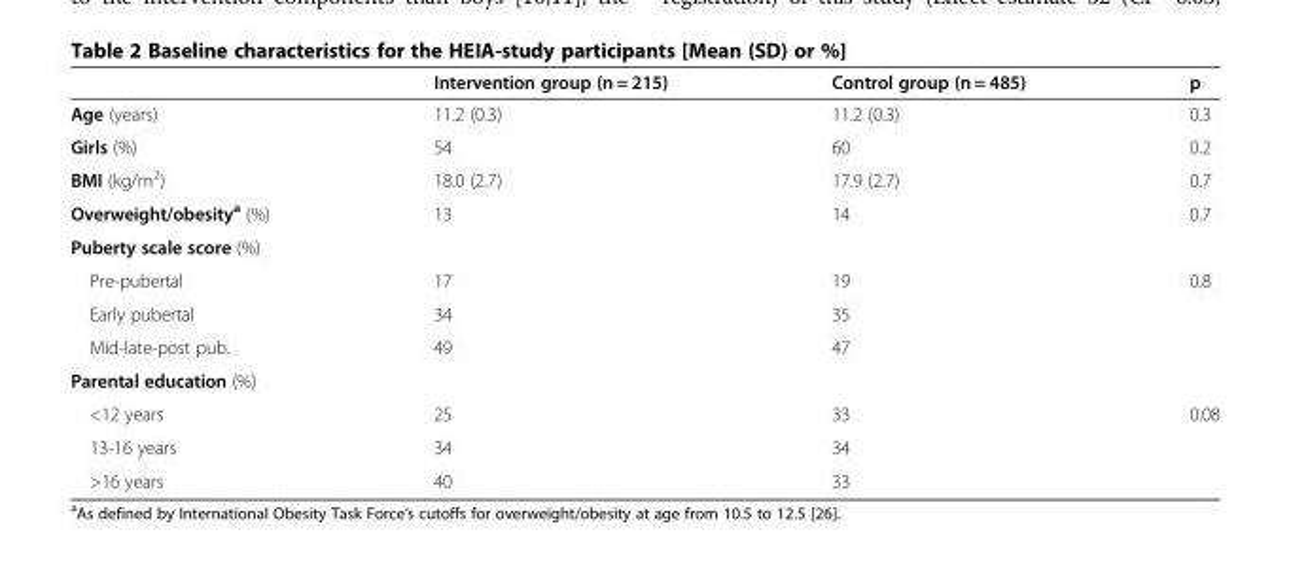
<table><thead><tr><td></td><td>Intervention group (n = 215)</td><td>Control group (n = 485)</td><td>p</td></tr></thead><tbody><tr><td>Age (years)</td><td>11.2 (0.3)</td><td>11.2 (0.3)</td><td>0.3</td></tr><tr><td>Girls (%)</td><td>54</td><td>60</td><td>0.2</td></tr><tr><td>BMI (kg/m<sup>2</sup>)</td><td>18.0 (2.7)</td><td>17.9 (2.7)</td><td>0.7</td></tr><tr><td>Overweight/obesity<sup>a</sup> (%)</td><td>13</td><td>14</td><td>0.7</td></tr><tr><td colspan="4">Puberty scale score (%)</td></tr><tr><td>Pre-pubertal</td><td>17</td><td>19</td><td>0.8</td></tr><tr><td>Early pubertal</td><td>34</td><td>35</td><td></td></tr><tr><td>Mid-late-post pub.</td><td>49</td><td>47</td><td></td></tr><tr><td colspan="4">Parental education (%)</td></tr><tr><td>&lt;12 years</td><td>25</td><td>33</td><td>0.08</td></tr><tr><td>13-16 years</td><td>34</td><td>34</td><td></td></tr><tr><td>&gt;16 years</td><td>40</td><td>33</td><td></td></tr></tbody></table>